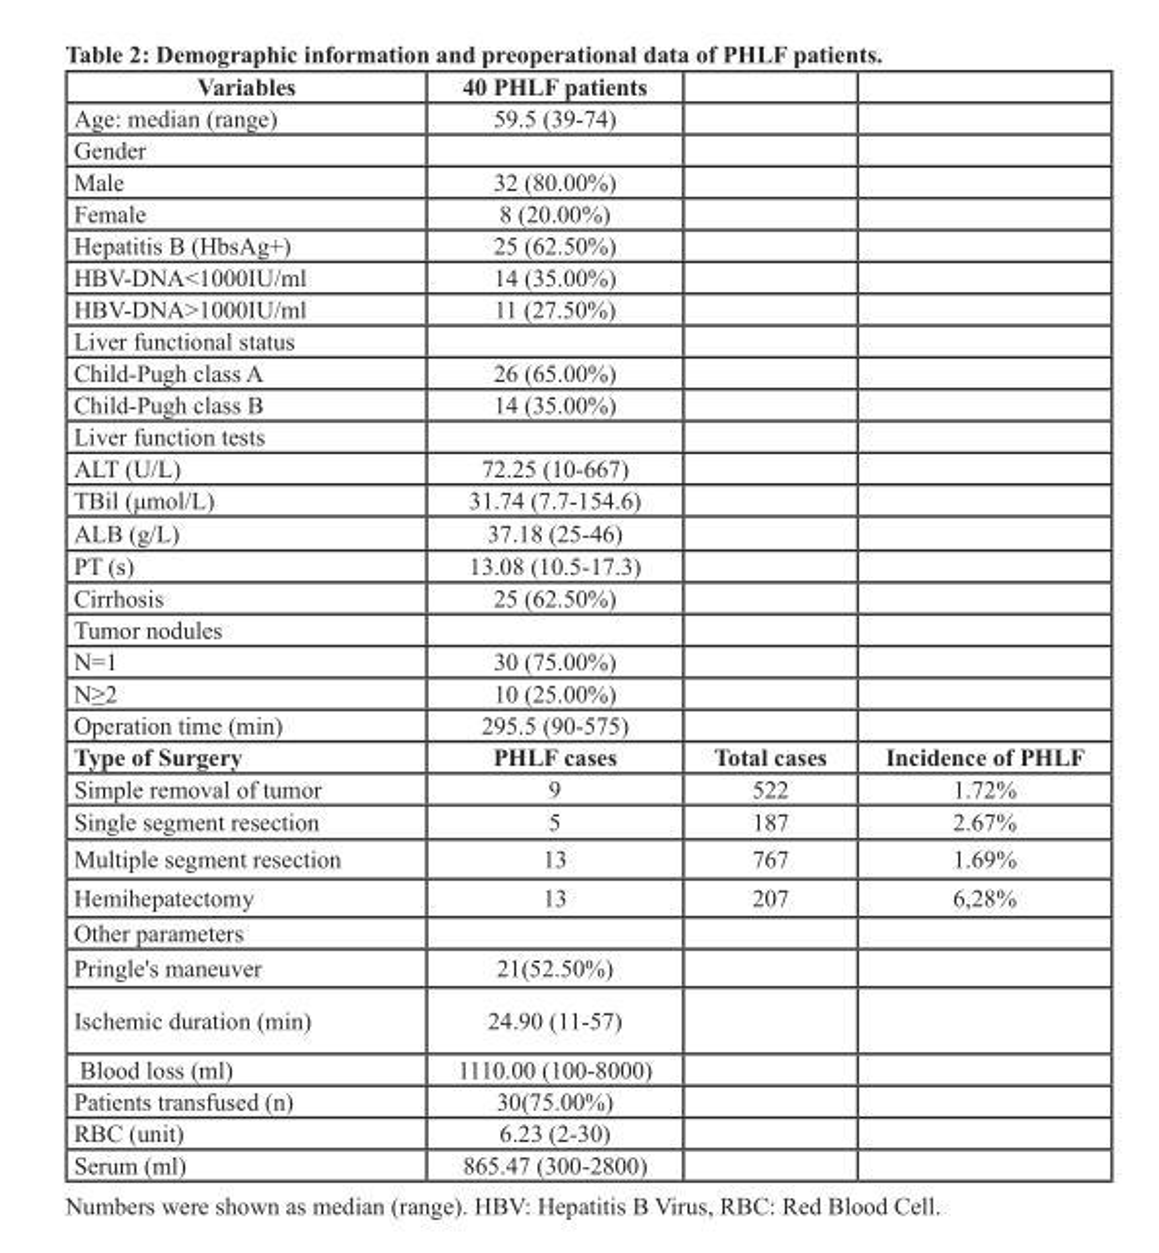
<table><thead><tr><td>Variables</td><td>40 PHLF patients</td><td></td><td></td></tr></thead><tbody><tr><td>Age: median (range)</td><td>59.5 (39-74)</td><td></td><td></td></tr><tr><td colspan="4">Gender</td></tr><tr><td>Male</td><td>32 (80.00%)</td><td></td><td></td></tr><tr><td>Female</td><td>8 (20.00%)</td><td></td><td></td></tr><tr><td>Hepatitis B (HbsAg+)</td><td>25 (62.50%)</td><td></td><td></td></tr><tr><td>HBV-DNA&lt;1000IU/ml</td><td>14 (35.00%)</td><td></td><td></td></tr><tr><td>HBV-DNA&gt;1000IU/ml</td><td>11 (27.50%)</td><td></td><td></td></tr><tr><td colspan="4">Liver functional status</td></tr><tr><td>Child-Pugh class A</td><td>26 (65.00%)</td><td></td><td></td></tr><tr><td>Child-Pugh class B</td><td>14 (35.00%)</td><td></td><td></td></tr><tr><td colspan="4">Liver function tests</td></tr><tr><td>ALT (U/L)</td><td>72.25 (10-667)</td><td></td><td></td></tr><tr><td>TBil (μmol/L)</td><td>31.74 (7.7-154.6)</td><td></td><td></td></tr><tr><td>ALB (g/L)</td><td>37.18 (25-46)</td><td></td><td></td></tr><tr><td>PT (s)</td><td>13.08 (10.5-17.3)</td><td></td><td></td></tr><tr><td>Cirrhosis</td><td>25 (62.50%)</td><td></td><td></td></tr><tr><td colspan="4">Tumor nodules</td></tr><tr><td>N=1</td><td>30 (75.00%)</td><td></td><td></td></tr><tr><td>N≥2</td><td>10 (25.00%)</td><td></td><td></td></tr><tr><td>Operation time (min)</td><td>295.5 (90-575)</td><td></td><td></td></tr><tr><td>Type of Surgery</td><td>PHLF cases</td><td>Total cases</td><td>Incidence of PHLF</td></tr><tr><td>Simple removal of tumor</td><td>9</td><td>522</td><td>1.72%</td></tr><tr><td>Single segment resection</td><td>5</td><td>187</td><td>2.67%</td></tr><tr><td>Multiple segment resection</td><td>13</td><td>767</td><td>1.69%</td></tr><tr><td>Hemihepatectomy</td><td>13</td><td>207</td><td>6,28%</td></tr><tr><td colspan="4">Other parameters</td></tr><tr><td>Pringle&#x27;s maneuver</td><td>21(52.50%)</td><td></td><td></td></tr><tr><td>Ischemic duration (min)</td><td>24.90 (11-57)</td><td></td><td></td></tr><tr><td>Blood loss (ml)</td><td>1110.00 (100-8000)</td><td></td><td></td></tr><tr><td>Patients transfused (n)</td><td>30(75.00%)</td><td></td><td></td></tr><tr><td>RBC (unit)</td><td>6.23 (2-30)</td><td></td><td></td></tr><tr><td>Serum (ml)</td><td>865.47 (300-2800)</td><td></td><td></td></tr></tbody></table>